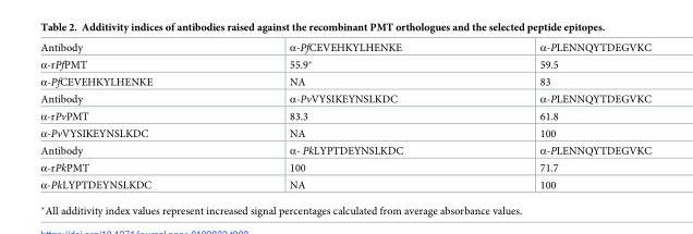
<table><tbody><tr><td>Antibody</td><td>α-PfCEVEHKYLHENKE</td><td>α-PLENNQYTDEGVKC</td></tr><tr><td>α-rPfPMT</td><td>55.9*</td><td>59.5</td></tr><tr><td>α-PfCEVEHKYLHENKE</td><td>NA</td><td>83</td></tr><tr><td>Antibody</td><td>α-PvVYSIKEYNSLKDC</td><td>α-PLENNQYTDEGVKC</td></tr><tr><td>α-rPvPMT</td><td>83.3</td><td>61.8</td></tr><tr><td>α-PvVYSIKEYNSLKDC</td><td>NA</td><td>100</td></tr><tr><td>Antibody</td><td>α- PkLYPTDEYNSLKDC</td><td>α-PLENNQYTDEGVKC</td></tr><tr><td>α-rPkPMT</td><td>100</td><td>71.7</td></tr><tr><td>α-PkLYPTDEYNSLKDC</td><td>NA</td><td>100</td></tr></tbody></table>